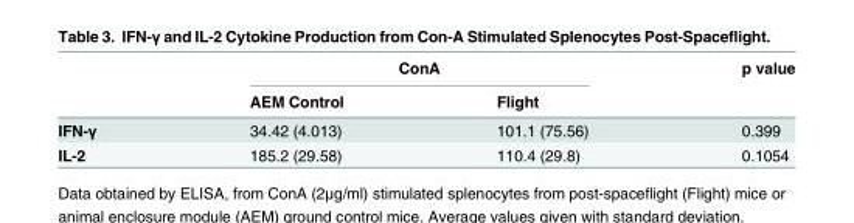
<table><thead><tr><td rowspan="2"></td><td colspan="2">ConA</td><td rowspan="2">p value</td></tr><tr><td>AEM Control</td><td>Flight</td></tr></thead><tbody><tr><td>IFN-γ</td><td>34.42 (4.013)</td><td>101.1 (75.56)</td><td>0.399</td></tr><tr><td>IL-2</td><td>185.2 (29.58)</td><td>110.4 (29.8)</td><td>0.1054</td></tr></tbody></table>